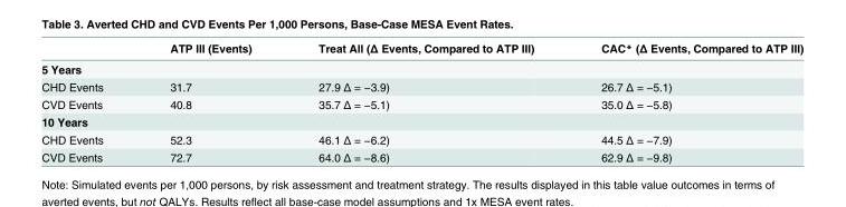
<table><thead><tr><td></td><td>ATP III (Events)</td><td>Treat All (Δ Events, Compared to ATP III)</td><td>CAC* (Δ Events, Compared to ATP III)</td></tr></thead><tbody><tr><td colspan="4">5 Years</td></tr><tr><td>CHD Events</td><td>31.7</td><td>27.9 Δ = −3.9)</td><td>26.7 Δ = −5.1)</td></tr><tr><td>CVD Events</td><td>40.8</td><td>35.7 Δ = −5.1)</td><td>35.0 Δ = −5.8)</td></tr><tr><td colspan="4">10 Years</td></tr><tr><td>CHD Events</td><td>52.3</td><td>46.1 Δ = −6.2)</td><td>44.5 Δ = −7.9)</td></tr><tr><td>CVD Events</td><td>72.7</td><td>64.0 Δ = −8.6)</td><td>62.9 Δ = −9.8)</td></tr></tbody></table>